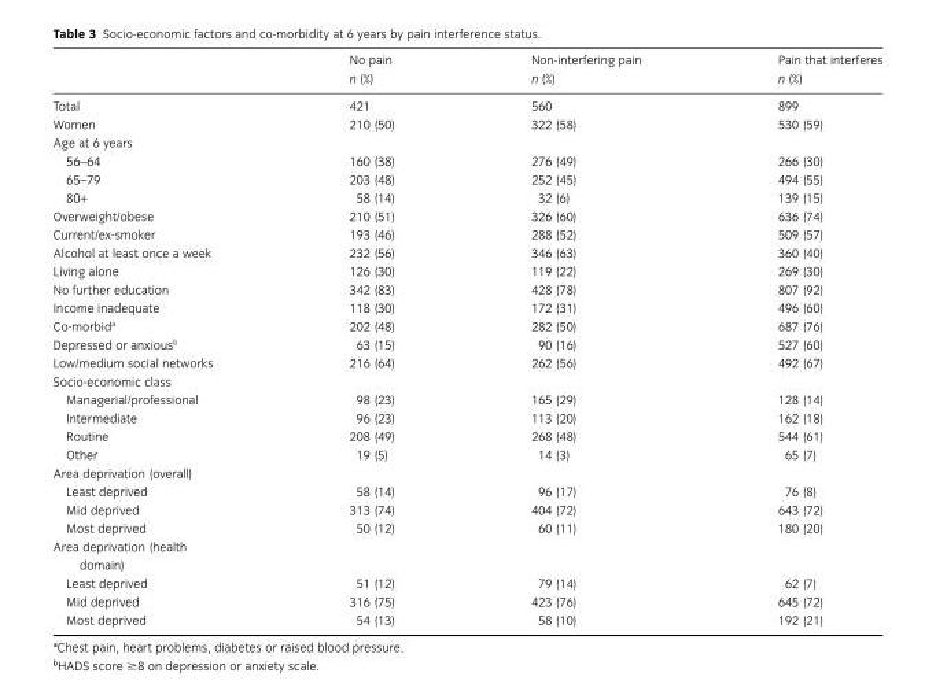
<table><thead><tr><td></td><td>No pain n (%)</td><td>Non-interfering pain n (%)</td><td>Pain that interferes n (%)</td></tr></thead><tbody><tr><td>Total</td><td>421</td><td>560</td><td>899</td></tr><tr><td>Women</td><td>210 (50)</td><td>322 (58)</td><td>530 (59)</td></tr><tr><td colspan="4">Age at 6 years</td></tr><tr><td>56–64</td><td>160 (38)</td><td>276 (49)</td><td>266 (30)</td></tr><tr><td>65–79</td><td>203 (48)</td><td>252 (45)</td><td>494 (55)</td></tr><tr><td>80+</td><td>58 (14)</td><td>32 (6)</td><td>139 (15)</td></tr><tr><td>Overweight/obese</td><td>210 (51)</td><td>326 (60)</td><td>636 (74)</td></tr><tr><td>Current/ex-smoker</td><td>193 (46)</td><td>288 (52)</td><td>509 (57)</td></tr><tr><td>Alcohol at least once a week</td><td>232 (56)</td><td>346 (63)</td><td>360 (40)</td></tr><tr><td>Living alone</td><td>126 (30)</td><td>119 (22)</td><td>269 (30)</td></tr><tr><td>No further education</td><td>342 (83)</td><td>428 (78)</td><td>807 (92)</td></tr><tr><td>Income inadequate</td><td>118 (30)</td><td>172 (31)</td><td>496 (60)</td></tr><tr><td>Co-morbid<sup>a</sup></td><td>202 (48)</td><td>282 (50)</td><td>687 (76)</td></tr><tr><td>Depressed or anxious<sup>b</sup></td><td>63 (15)</td><td>90 (16)</td><td>527 (60)</td></tr><tr><td>Low/medium social networks</td><td>216 (64)</td><td>262 (56)</td><td>492 (67)</td></tr><tr><td colspan="4">Socio-economic class</td></tr><tr><td>Managerial/professional</td><td>98 (23)</td><td>165 (29)</td><td>128 (14)</td></tr><tr><td>Intermediate</td><td>96 (23)</td><td>113 (20)</td><td>162 (18)</td></tr><tr><td>Routine</td><td>208 (49)</td><td>268 (48)</td><td>544 (61)</td></tr><tr><td>Other</td><td>19 (5)</td><td>14 (3)</td><td>65 (7)</td></tr><tr><td colspan="4">Area deprivation (overall)</td></tr><tr><td>Least deprived</td><td>58 (14)</td><td>96 (17)</td><td>76 (8)</td></tr><tr><td>Mid deprived</td><td>313 (74)</td><td>404 (72)</td><td>643 (72)</td></tr><tr><td>Most deprived</td><td>50 (12)</td><td>60 (11)</td><td>180 (20)</td></tr><tr><td colspan="4">Area deprivation (health domain)</td></tr><tr><td>Least deprived</td><td>51 (12)</td><td>79 (14)</td><td>62 (7)</td></tr><tr><td>Mid deprived</td><td>316 (75)</td><td>423 (76)</td><td>645 (72)</td></tr><tr><td>Most deprived</td><td>54 (13)</td><td>58 (10)</td><td>192 (21)</td></tr></tbody></table>